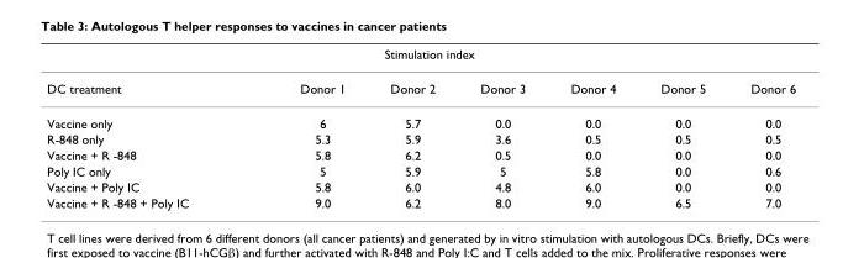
<table><thead><tr><td colspan="7">Stimulation index</td></tr><tr><td>DC treatment</td><td>Donor 1</td><td>Donor 2</td><td>Donor 3</td><td>Donor 4</td><td>Donor 5</td><td>Donor 6</td></tr></thead><tbody><tr><td>Vaccine only</td><td>6</td><td>5.7</td><td>0.0</td><td>0.0</td><td>0.0</td><td>0.0</td></tr><tr><td>R-848 only</td><td>5.3</td><td>5.9</td><td>3.6</td><td>0.5</td><td>0.5</td><td>0.5</td></tr><tr><td>Vaccine + R -848</td><td>5.8</td><td>6.2</td><td>0.5</td><td>0.0</td><td>0.0</td><td>0.0</td></tr><tr><td>Poly IC only</td><td>5</td><td>5.9</td><td>5</td><td>5.8</td><td>0.0</td><td>0.6</td></tr><tr><td>Vaccine + Poly IC</td><td>5.8</td><td>6.0</td><td>4.8</td><td>6.0</td><td>0.0</td><td>0.0</td></tr><tr><td>Vaccine + R -848 + Poly IC</td><td>9.0</td><td>6.2</td><td>8.0</td><td>9.0</td><td>6.5</td><td>7.0</td></tr></tbody></table>